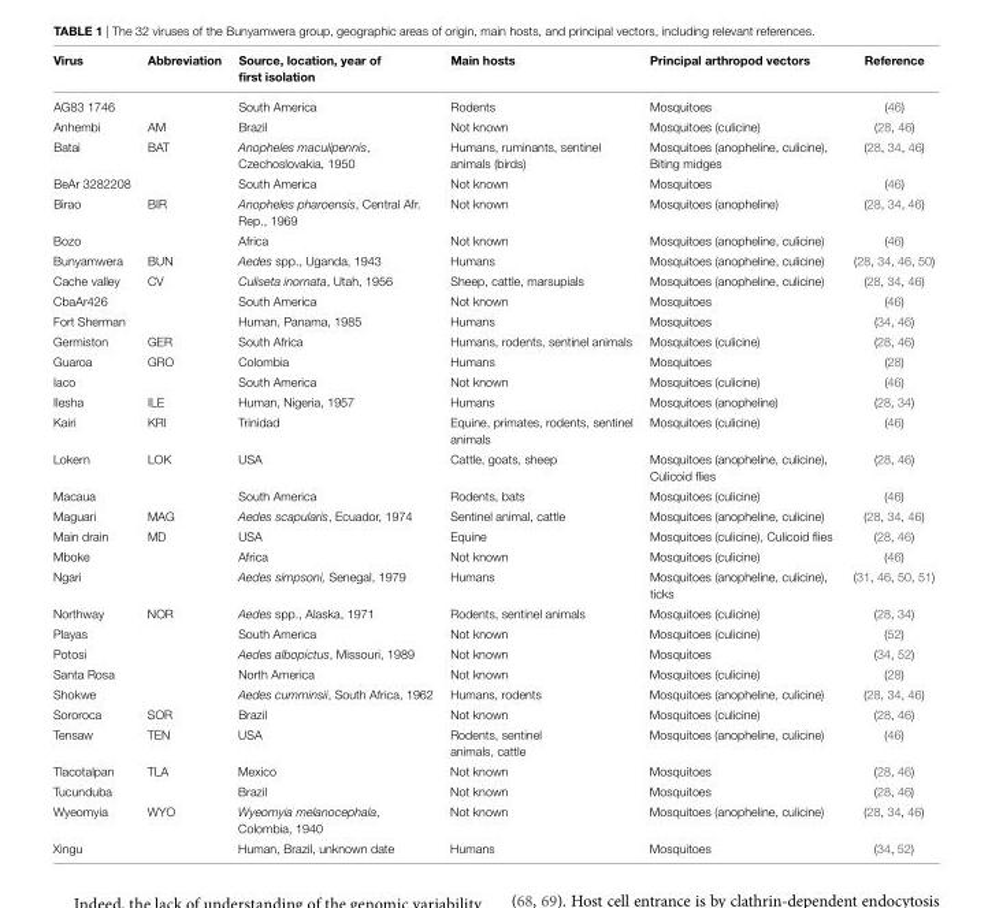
<table><thead><tr><td>virus</td><td>Abbreviation</td><td>Source, location, year of first isolation</td><td>Main hosts</td><td>Principal arthropod vectors</td><td>Reference</td></tr></thead><tbody><tr><td>AG83 1746</td><td></td><td>South America</td><td>Rodents</td><td>Mosquitoes</td><td>(46)</td></tr><tr><td>Anhembi</td><td>AM</td><td>Brazil</td><td>Not known</td><td>Mosquitoes (culicine)</td><td>(28, 46)</td></tr><tr><td>Batai</td><td>BAT</td><td>Anopheles maculipennis, Czechoslovakia, 1950</td><td>Humans, ruminants, sentinel animals (birds)</td><td>Mosquitoes (anopheline, culicine), Biting midges</td><td>(28, 34, 46)</td></tr><tr><td>BeAr 3282208</td><td></td><td>South America</td><td>Not known</td><td>Mosquitoes</td><td>(46)</td></tr><tr><td>Birao</td><td>BIR</td><td>Anopheles pharoensis, Central Afr. Rep., 1969</td><td>Not known</td><td>Mosquitoes (anopheline)</td><td>(28, 34, 46)</td></tr><tr><td>Bozo</td><td></td><td>Africa</td><td>Not known</td><td>Mosquitoes (anopheline, culicine)</td><td>(46)</td></tr><tr><td>Bunyamwera</td><td>BUN</td><td>Aedes spp., Uganda, 1943</td><td>Humans</td><td>Mosquitoes (anopheline, culicine)</td><td>(28, 34, 46, 50)</td></tr><tr><td>Cache valley</td><td>CV</td><td>Culiseta inornata, Utah, 1956</td><td>Sheep, cattle, marsupials</td><td>Mosquitoes (anopheline, culicine)</td><td>(28, 34, 46)</td></tr><tr><td>CbaAr426</td><td></td><td>South America</td><td>Not known</td><td>Mosquitoes</td><td>(46)</td></tr><tr><td>Fort Sherman</td><td></td><td>Human, Panama, 1985</td><td>Humans</td><td>Mosquitoes</td><td>(34, 46)</td></tr><tr><td>Germiston</td><td>GER</td><td>South Africa</td><td>Humans, rodents, sentinel animals</td><td>Mosquitoes (culicine)</td><td>(28, 46)</td></tr><tr><td>Guaroa</td><td>GRO</td><td>Colombia</td><td>Humans</td><td>Mosquitoes</td><td>(28)</td></tr><tr><td>Iaco</td><td></td><td>South America</td><td>Not known</td><td>Mosquitoes (culicine)</td><td>(46)</td></tr><tr><td>Ilesha</td><td>ILE</td><td>Human, Nigeria, 1957</td><td>Humans</td><td>Mosquitoes (anopheline)</td><td>(28, 34)</td></tr><tr><td>Kairi</td><td>KRI</td><td>Trinidad</td><td>Equine, primates, rodents, sentinel animals</td><td>Mosquitoes (culicine)</td><td>(46)</td></tr><tr><td>Lokern</td><td>LOK</td><td>USA</td><td>Cattle, goats, sheep</td><td>Mosquitoes (anopheline, culicine), Culicoid flies</td><td>(28, 46)</td></tr><tr><td>Macaua</td><td></td><td>South America</td><td>Rodents, bats</td><td>Mosquitoes (culicine)</td><td>(46)</td></tr><tr><td>Maguari</td><td>MAG</td><td>Aedes scapularis, Ecuador, 1974</td><td>Sentinel animal, cattle</td><td>Mosquitoes (anopheline, culicine)</td><td>(28, 34, 46)</td></tr><tr><td>Main drain</td><td>MD</td><td>USA</td><td>Equine</td><td>Mosquitoes (culicine), Culicoid flies</td><td>(28, 46)</td></tr><tr><td>Mboke</td><td></td><td>Africa</td><td>Not known</td><td>Mosquitoes (culicine)</td><td>(46)</td></tr><tr><td>Ngari</td><td></td><td>Aedes simpsoni, Senegal, 1979</td><td>Humans</td><td>Mosquitoes (anopheline, culicine), ticks</td><td>(31, 46, 50, 51)</td></tr><tr><td>Northway</td><td>NOR</td><td>Aedes spp., Alaska, 1971</td><td>Rodents, sentinel animals</td><td>Mosquitoes (culicine)</td><td>(28, 34)</td></tr><tr><td>Playas</td><td></td><td>South America</td><td>Not known</td><td>Mosquitoes (culicine)</td><td>(52)</td></tr><tr><td>Potosi</td><td></td><td>Aedes albopictus, Missouri, 1989</td><td>Not known</td><td>Mosquitoes</td><td>(34, 52)</td></tr><tr><td>Santa Rosa</td><td></td><td>North America</td><td>Not known</td><td>Mosquitoes (culicine)</td><td>(28)</td></tr><tr><td>Shokwe</td><td></td><td>Aedes cumminsii, South Africa, 1962</td><td>Humans, rodents</td><td>Mosquitoes (anopheline, culicine)</td><td>(28, 34, 46)</td></tr><tr><td>Sororoca</td><td>SOR</td><td>Brazil</td><td>Not known</td><td>Mosquitoes (culicine)</td><td>(28, 46)</td></tr><tr><td>Tensaw</td><td>TEN</td><td>USA</td><td>Rodents, sentinel animals, cattle</td><td>Mosquitoes (anopheline, culicine)</td><td>(46)</td></tr><tr><td>Tlacotalpan</td><td>TLA</td><td>Mexico</td><td>Not known</td><td>Mosquitoes</td><td>(28, 46)</td></tr><tr><td>Tucunduba</td><td></td><td>Brazil</td><td>Not known</td><td>Mosquitoes</td><td>(28, 46)</td></tr><tr><td>Wyeomyia</td><td>WYO</td><td>Wyeomyia melanocephala, Colombia, 1940</td><td>Not known</td><td>Mosquitoes (anopheline, culicine)</td><td>(28, 34, 46)</td></tr><tr><td>Xingu</td><td></td><td>Human, Brazil, unknown date</td><td>Humans</td><td>Mosquitoes</td><td>(34, 52)</td></tr></tbody></table>